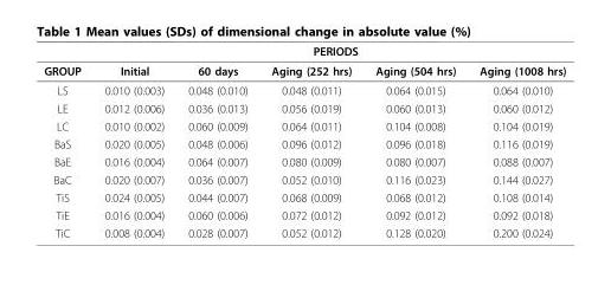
<table><thead><tr><td rowspan="2">GROUP</td><td colspan="5">PERIODS</td></tr><tr><td>Initial</td><td>60 days</td><td>Aging (252 hrs)</td><td>Aging (504 hrs)</td><td>Aging (1008 hrs)</td></tr></thead><tbody><tr><td>LS</td><td>0.010 (0.003)</td><td>0.048 (0.010)</td><td>0.048 (0.011)</td><td>0.064 (0.015)</td><td>0.064 (0.010)</td></tr><tr><td>LE</td><td>0.012 (0.006)</td><td>0.036 (0.013)</td><td>0.056 (0.019)</td><td>0.060 (0.013)</td><td>0.060 (0.012)</td></tr><tr><td>LC</td><td>0.010 (0.002)</td><td>0.060 (0.009)</td><td>0.064 (0.011)</td><td>0.104 (0.008)</td><td>0.104 (0.019)</td></tr><tr><td>BaS</td><td>0.020 (0.005)</td><td>0.048 (0.006)</td><td>0.096 (0.012)</td><td>0.096 (0.018)</td><td>0.116 (0.019)</td></tr><tr><td>BaE</td><td>0.016 (0.004)</td><td>0.064 (0.007)</td><td>0.080 (0.009)</td><td>0.080 (0.007)</td><td>0.088 (0.007)</td></tr><tr><td>BaC</td><td>0.020 (0.007)</td><td>0.036 (0.007)</td><td>0.052 (0.010)</td><td>0.116 (0.023)</td><td>0.144 (0.027)</td></tr><tr><td>TiS</td><td>0.024 (0.005)</td><td>0.044 (0.007)</td><td>0.068 (0.009)</td><td>0.068 (0.012)</td><td>0.108 (0.014)</td></tr><tr><td>TiE</td><td>0.016 (0.004)</td><td>0.060 (0.006)</td><td>0.072 (0.012)</td><td>0.092 (0.012)</td><td>0.092 (0.018)</td></tr><tr><td>TiC</td><td>0.008 (0.004)</td><td>0.028 (0.007)</td><td>0.052 (0.012)</td><td>0.128 (0.020)</td><td>0.200 (0.024)</td></tr></tbody></table>